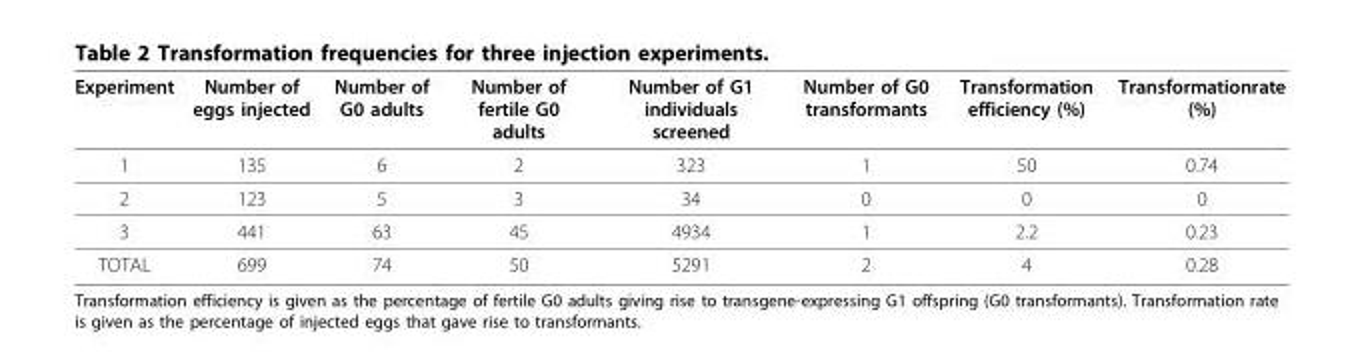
<table><thead><tr><td>Experiment</td><td>Number of eggs injected</td><td>Number of G0 adults</td><td>Number of fertile G0 adults</td><td>Number of G1 individuals screened</td><td>Number of G0 transformants</td><td>Transformation efficiency (%)</td><td>Transformationrate (%)</td></tr></thead><tbody><tr><td>1</td><td>135</td><td>6</td><td>2</td><td>323</td><td>1</td><td>50</td><td>0.74</td></tr><tr><td>2</td><td>123</td><td>5</td><td>3</td><td>34</td><td>0</td><td>0</td><td>0</td></tr><tr><td>3</td><td>441</td><td>63</td><td>45</td><td>4934</td><td>1</td><td>2.2</td><td>0.23</td></tr><tr><td>TOTAL</td><td>699</td><td>74</td><td>50</td><td>5291</td><td>2</td><td>4</td><td>0.28</td></tr></tbody></table>